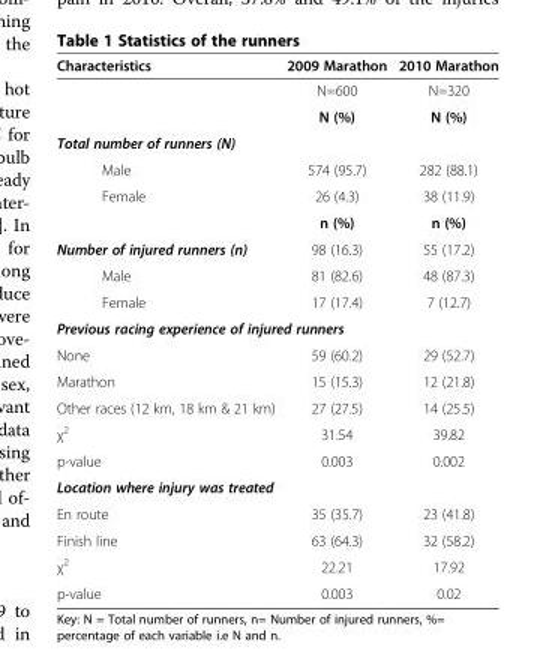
<table><thead><tr><td>Characteristics</td><td>2009 Marathon</td><td>2010 Marathon</td></tr></thead><tbody><tr><td></td><td>N=600</td><td>N=320</td></tr><tr><td></td><td>N (%)</td><td>N (%)</td></tr><tr><td colspan="3">Total number of runners (N)</td></tr><tr><td>Male</td><td>574 (95.7)</td><td>282 (88.1)</td></tr><tr><td rowspan="2">Female</td><td>26 (4.3)</td><td>38 (11.9)</td></tr><tr><td>n (%)</td><td>n (%)</td></tr><tr><td>Number of injured runners (n)</td><td>98 (16.3)</td><td>55 (17.2)</td></tr><tr><td>Male</td><td>81 (82.6)</td><td>48 (87.3)</td></tr><tr><td>Female</td><td>17 (17.4)</td><td>7 (12.7)</td></tr><tr><td colspan="3">Previous racing experience of injured runners</td></tr><tr><td>None</td><td>59 (60.2)</td><td>29 (52.7)</td></tr><tr><td>Marathon</td><td>15 (15.3)</td><td>12 (21.8)</td></tr><tr><td>Other races (12 km, 18 km &amp; 21 km)</td><td>27 (27.5)</td><td>14 (25.5)</td></tr><tr><td>χ<sup>2</sup></td><td>31.54</td><td>39.82</td></tr><tr><td>p-value</td><td>0.003</td><td>0.002</td></tr><tr><td colspan="3">Location where injury was treated</td></tr><tr><td>En route</td><td>35 (35.7)</td><td>23 (41.8)</td></tr><tr><td>Finish line</td><td>63 (64.3)</td><td>32 (58.2)</td></tr><tr><td>χ<sup>2</sup></td><td>22.21</td><td>17.92</td></tr><tr><td>p-value</td><td>0.003</td><td>0.02</td></tr></tbody></table>